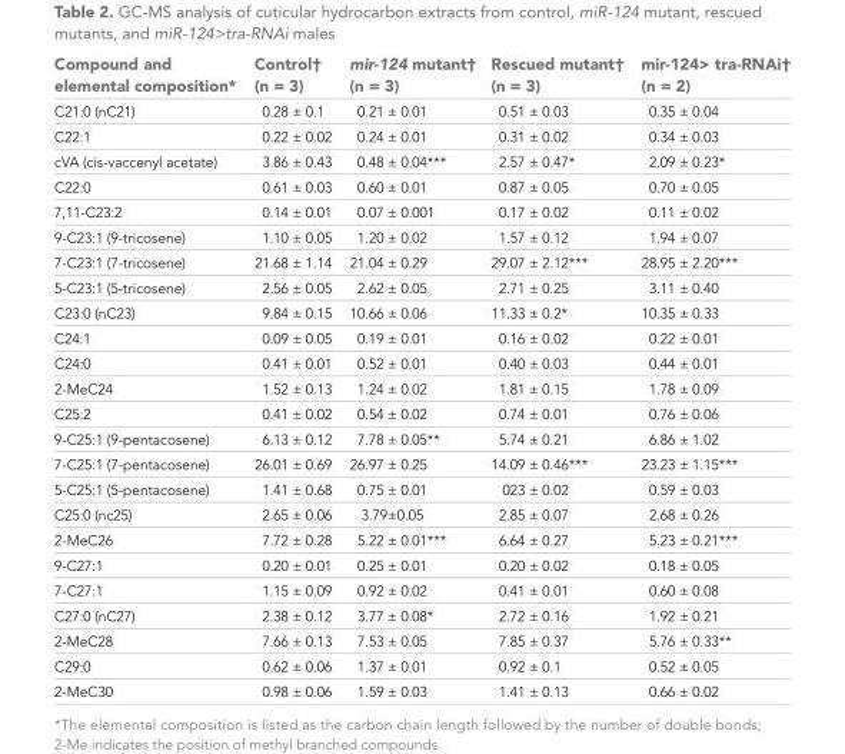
<table><thead><tr><td>Compound and elemental composition*</td><td>Control† (n = 3)</td><td>mir-124 mutant† (n = 3)</td><td>Rescued mutant† (n = 3)</td><td>mir-124&gt; tra-RNAi† (n = 2)</td></tr></thead><tbody><tr><td>C21:0 (nC21)</td><td>0.28 ± 0.1</td><td>0.21 ± 0.01</td><td>0.51 ± 0.03</td><td>0.35 ± 0.04</td></tr><tr><td>C22:1</td><td>0.22 ± 0.02</td><td>0.24 ± 0.01</td><td>0.31 ± 0.02</td><td>0.34 ± 0.03</td></tr><tr><td>cVA (cis-vaccenyl acetate)</td><td>3.86 ± 0.43</td><td>0.48 ± 0.04***</td><td>2.57 ± 0.47*</td><td>2.09 ± 0.23*</td></tr><tr><td>C22:0</td><td>0.61 ± 0.03</td><td>0.60 ± 0.01</td><td>0.87 ± 0.05</td><td>0.70 ± 0.05</td></tr><tr><td>7,11-C23:2</td><td>0.14 ± 0.01</td><td>0.07 ± 0.001</td><td>0.17 ± 0.02</td><td>0.11 ± 0.02</td></tr><tr><td>9-C23:1 (9-tricosene)</td><td>1.10 ± 0.05</td><td>1.20 ± 0.02</td><td>1.57 ± 0.12</td><td>1.94 ± 0.07</td></tr><tr><td>7-C23:1 (7-tricosene)</td><td>21.68 ± 1.14</td><td>21.04 ± 0.29</td><td>29.07 ± 2.12***</td><td>28.95 ± 2.20***</td></tr><tr><td>5-C23:1 (5-tricosene)</td><td>2.56 ± 0.05</td><td>2.62 ± 0.05</td><td>2.71 ± 0.25</td><td>3.11 ± 0.40</td></tr><tr><td>C23:0 (nC23)</td><td>9.84 ± 0.15</td><td>10.66 ± 0.06</td><td>11.33 ± 0.2*</td><td>10.35 ± 0.33</td></tr><tr><td>C24:1</td><td>0.09 ± 0.05</td><td>0.19 ± 0.01</td><td>0.16 ± 0.02</td><td>0.22 ± 0.01</td></tr><tr><td>C24:0</td><td>0.41 ± 0.01</td><td>0.52 ± 0.01</td><td>0.40 ± 0.03</td><td>0.44 ± 0.01</td></tr><tr><td>2-MeC24</td><td>1.52 ± 0.13</td><td>1.24 ± 0.02</td><td>1.81 ± 0.15</td><td>1.78 ± 0.09</td></tr><tr><td>C25:2</td><td>0.41 ± 0.02</td><td>0.54 ± 0.02</td><td>0.74 ± 0.01</td><td>0.76 ± 0.06</td></tr><tr><td>9-C25:1 (9-pentacosene)</td><td>6.13 ± 0.12</td><td>7.78 ± 0.05**</td><td>5.74 ± 0.21</td><td>6.86 ± 1.02</td></tr><tr><td>7-C25:1 (7-pentacosene)</td><td>26.01 ± 0.69</td><td>26.97 ± 0.25</td><td>14.09 ± 0.46***</td><td>23.23 ± 1.15***</td></tr><tr><td>5-C25:1 (5-pentacosene)</td><td>1.41 ± 0.68</td><td>0.75 ± 0.01</td><td>023 ± 0.02</td><td>0.59 ± 0.03</td></tr><tr><td>C25:0 (nc25)</td><td>2.65 ± 0.06</td><td>3.79±0.05</td><td>2.85 ± 0.07</td><td>2.68 ± 0.26</td></tr><tr><td>2-MeC26</td><td>7.72 ± 0.28</td><td>5.22 ± 0.01***</td><td>6.64 ± 0.27</td><td>5.23 ± 0.21***</td></tr><tr><td>9-C27:1</td><td>0.20 ± 0.01</td><td>0.25 ± 0.01</td><td>0.20 ± 0.02</td><td>0.18 ± 0.05</td></tr><tr><td>7-C27:1</td><td>1.15 ± 0.09</td><td>0.92 ± 0.02</td><td>0.41 ± 0.01</td><td>0.60 ± 0.08</td></tr><tr><td>C27:0 (nC27)</td><td>2.38 ± 0.12</td><td>3.77 ± 0.08*</td><td>2.72 ± 0.16</td><td>1.92 ± 0.21</td></tr><tr><td>2-MeC28</td><td>7.66 ± 0.13</td><td>7.53 ± 0.05</td><td>7.85 ± 0.37</td><td>5.76 ± 0.33**</td></tr><tr><td>C29:0</td><td>0.62 ± 0.06</td><td>1.37 ± 0.01</td><td>0.92 ± 0.1</td><td>0.52 ± 0.05</td></tr><tr><td>2-MeC30</td><td>0.98 ± 0.06</td><td>1.59 ± 0.03</td><td>1.41 ± 0.13</td><td>0.66 ± 0.02</td></tr></tbody></table>